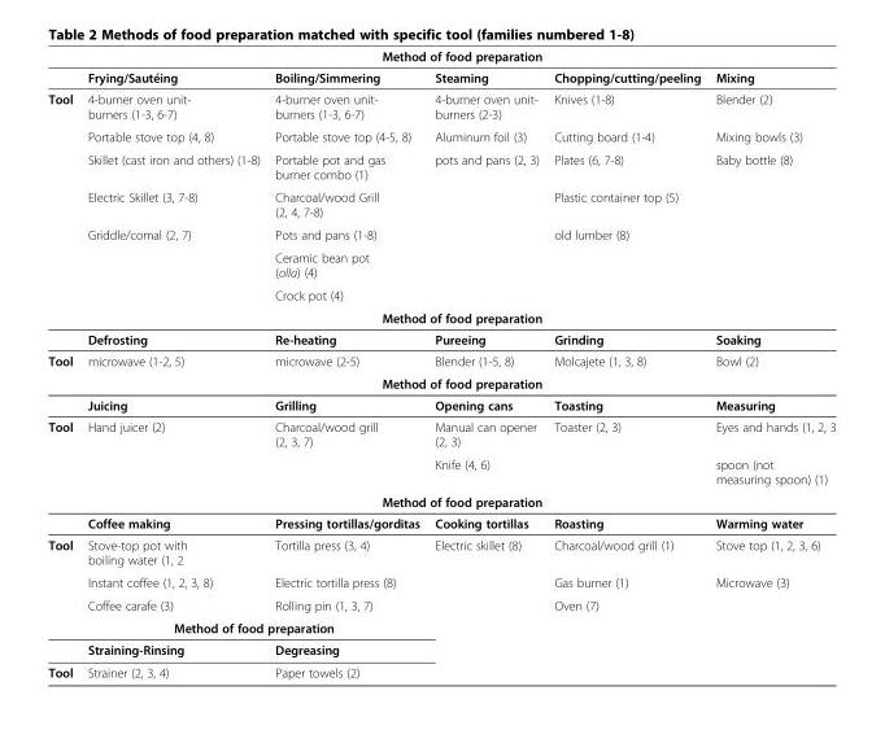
<table><thead><tr><td rowspan="2"></td><td colspan="5">Method of food preparation</td></tr><tr><td>Frying/Sautéing</td><td>Boiling/Simmering</td><td>Steaming</td><td>Chopping/cutting/peeling</td><td>Mixing</td></tr></thead><tbody><tr><td rowspan="9">Tool</td><td>4-burner oven unit- burners (1-3, 6-7)</td><td>4-burner oven unit- burners (1-3, 6-7)</td><td>4-burner oven unit- burners (2-3)</td><td>Knives (1-8)</td><td>Blender (2)</td></tr><tr><td>Portable stove top (4, 8)</td><td>Portable stove top (4-5, 8)</td><td>Aluminum foil (3)</td><td>Cutting board (1-4)</td><td>Mixing bowls (3)</td></tr><tr><td>Skillet (cast iron and others) (1-8)</td><td>Portable pot and gas burner combo (1)</td><td>pots and pans (2, 3)</td><td>Plates (6, 7-8)</td><td>Baby bottle (8)</td></tr><tr><td>Electric Skillet (3, 7-8)</td><td>Charcoal/wood Grill (2, 4, 7-8)</td><td></td><td>Plastic container top (5)</td><td></td></tr><tr><td>Griddle/comal (2, 7)</td><td>Pots and pans (1-8)</td><td></td><td>old lumber (8)</td><td></td></tr><tr><td></td><td>Ceramic bean pot (olla) (4)</td><td></td><td></td><td></td></tr><tr><td></td><td>Crock pot (4)</td><td></td><td></td><td></td></tr><tr><td colspan="5">Method of food preparation</td></tr><tr><td>Defrosting</td><td>Re-heating</td><td>Pureeing</td><td>Grinding</td><td>Soaking</td></tr><tr><td rowspan="3">Tool</td><td>microwave (1-2, 5)</td><td>microwave (2-5)</td><td>Blender (1-5, 8)</td><td>Molcajete (1, 3, 8)</td><td>Bowl (2)</td></tr><tr><td colspan="5">Method of food preparation</td></tr><tr><td>Juicing</td><td>Grilling</td><td>Opening cans</td><td>Toasting</td><td>Measuring</td></tr><tr><td rowspan="4">Tool</td><td>Hand juicer (2)</td><td>Charcoal/wood grill (2, 3, 7)</td><td>Manual can opener (2, 3)</td><td>Toaster (2, 3)</td><td>Eyes and hands (1, 2, 3</td></tr><tr><td></td><td></td><td>Knife (4, 6)</td><td></td><td>spoon (not measuring spoon) (1)</td></tr><tr><td colspan="5">Method of food preparation</td></tr><tr><td>Coffee making</td><td>Pressing tortillas/gorditas</td><td>Cooking tortillas</td><td>Roasting</td><td>Warming water</td></tr><tr><td rowspan="5">Tool</td><td>Stove-top pot with boiling water (1, 2</td><td>Tortilla press (3, 4)</td><td>Electric skillet (8)</td><td>Charcoal/wood grill (1)</td><td>Stove top (1, 2, 3, 6)</td></tr><tr><td>Instant coffee (1, 2, 3, 8)</td><td>Electric tortilla press (8)</td><td></td><td>Gas burner (1)</td><td>Microwave (3)</td></tr><tr><td>Coffee carafe (3)</td><td>Rolling pin (1, 3, 7)</td><td></td><td>Oven (7)</td><td></td></tr><tr><td colspan="2">Method of food preparation</td><td></td><td></td><td></td></tr><tr><td>Straining-Rinsing</td><td>Degreasing</td><td></td><td></td><td></td></tr><tr><td>Tool</td><td>Strainer (2, 3, 4)</td><td>Paper towels (2)</td><td></td><td></td><td></td></tr></tbody></table>